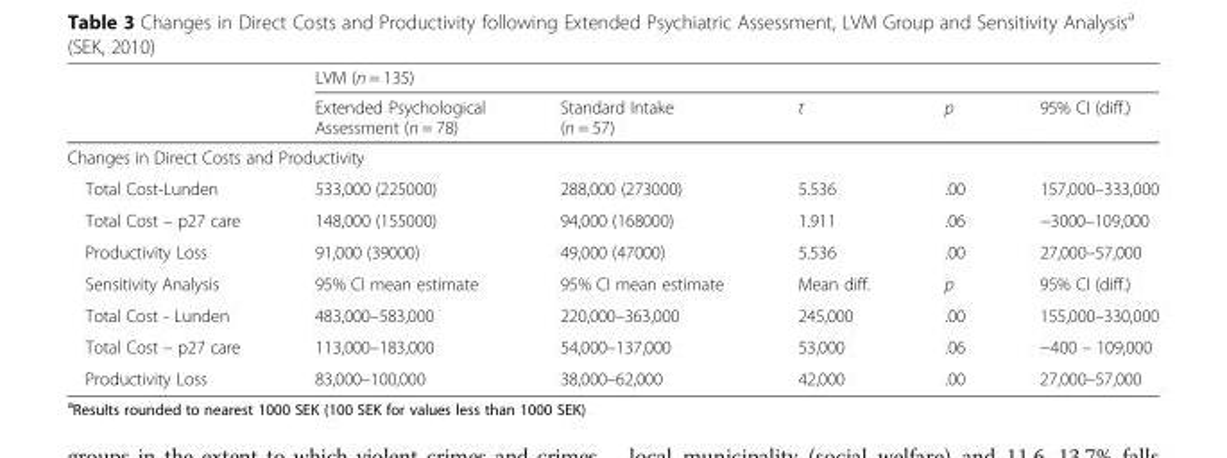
<table><thead><tr><td rowspan="2"></td><td colspan="5">LVM (n = 135)</td></tr><tr><td>Extended Psychological Assessment (n = 78)</td><td>Standard Intake (n = 57)</td><td>t</td><td>p</td><td>95% CI (diff.)</td></tr></thead><tbody><tr><td colspan="6">Changes in Direct Costs and Productivity</td></tr><tr><td>Total Cost-Lunden</td><td>533,000 (225000)</td><td>288,000 (273000)</td><td>5.536</td><td>.00</td><td>157,000–333,000</td></tr><tr><td>Total Cost – p27 care</td><td>148,000 (155000)</td><td>94,000 (168000)</td><td>1.911</td><td>.06</td><td>−3000–109,000</td></tr><tr><td>Productivity Loss</td><td>91,000 (39000)</td><td>49,000 (47000)</td><td>5.536</td><td>.00</td><td>27,000–57,000</td></tr><tr><td>Sensitivity Analysis</td><td>95% CI mean estimate</td><td>95% CI mean estimate</td><td>Mean diff.</td><td>p</td><td>95% CI (diff.)</td></tr><tr><td>Total Cost - Lunden</td><td>483,000–583,000</td><td>220,000–363,000</td><td>245,000</td><td>.00</td><td>155,000–330,000</td></tr><tr><td>Total Cost – p27 care</td><td>113,000–183,000</td><td>54,000–137,000</td><td>53,000</td><td>.06</td><td>−400 – 109,000</td></tr><tr><td>Productivity Loss</td><td>83,000–100,000</td><td>38,000–62,000</td><td>42,000</td><td>.00</td><td>27,000–57,000</td></tr></tbody></table>